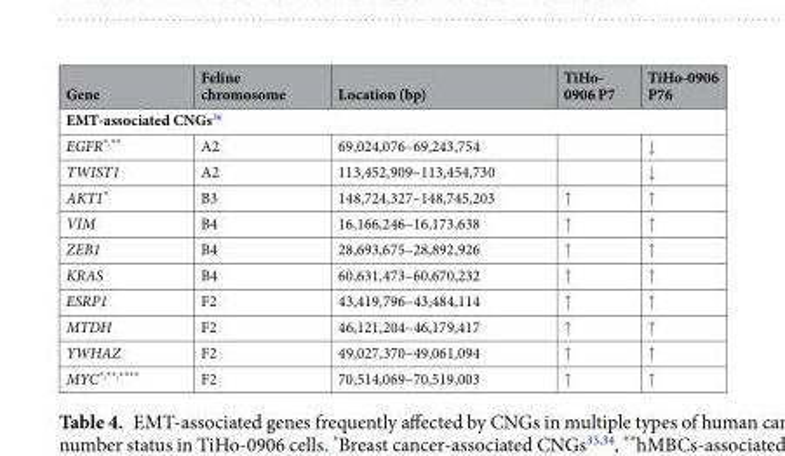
<table><thead><tr><td>Gene</td><td>Feline chromosome</td><td>Location (bp)</td><td>TiHo- 0906 P7</td><td>TiHo-0906 P76</td></tr></thead><tbody><tr><td colspan="5">EMT-associated CNGs<sup>36</sup></td></tr><tr><td>EGFR<sup>*,**</sup></td><td>A2</td><td>69,024,076–69,243,754</td><td></td><td>↓</td></tr><tr><td>TWIST1</td><td>A2</td><td>113,452,909–113,454,730</td><td></td><td>↓</td></tr><tr><td>AKT1*</td><td>B3</td><td>148,724,327–148,745,203</td><td>↑</td><td>↑</td></tr><tr><td>VIM</td><td>B4</td><td>16,166,246–16,173,638</td><td>↑</td><td>↑</td></tr><tr><td>ZEB1</td><td>B4</td><td>28,693,675–28,892,926</td><td>↑</td><td>↑</td></tr><tr><td>KRAS</td><td>B4</td><td>60,631,473–60,670,232</td><td>↑</td><td>↑</td></tr><tr><td>ESRP1</td><td>F2</td><td>43,419,796–43,484,114</td><td>↑</td><td>↑</td></tr><tr><td>MTDH</td><td>F2</td><td>46,121,204–46,179,417</td><td>↑</td><td>↑</td></tr><tr><td>YWHAZ</td><td>F2</td><td>49,027,370–49,061,094</td><td>↑</td><td>↑</td></tr><tr><td>MYC<sup>*,**,****</sup></td><td>F2</td><td>70,514,069–70,519,003</td><td>↑</td><td>↑</td></tr></tbody></table>